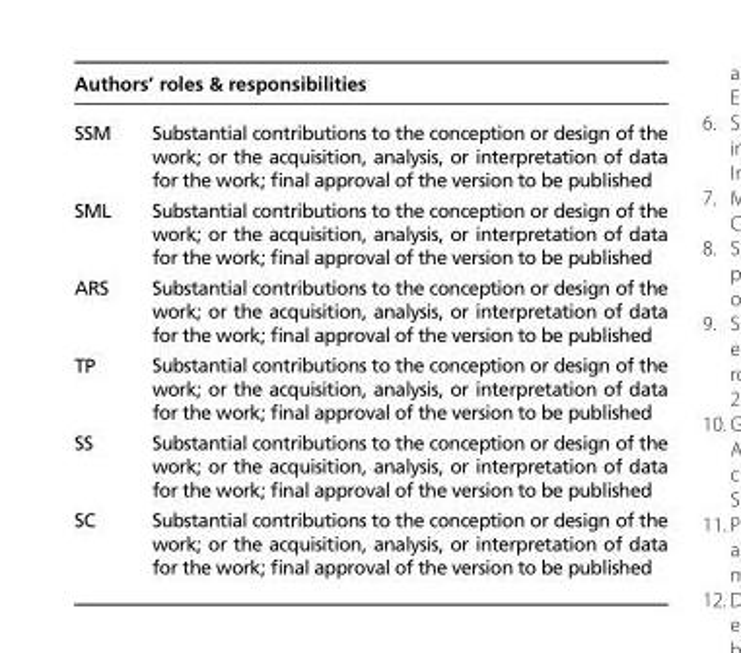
<table><thead><tr><td colspan="2">Authors’ roles &amp; responsibilities</td></tr><tr><td>SSM</td><td>Substantial contributions to the conception or design of the work; or the acquisition, analysis, or interpretation of data for the work; final approval of the version to be published</td></tr></thead><tbody><tr><td>SML</td><td>Substantial contributions to the conception or design of the work; or the acquisition, analysis, or interpretation of data for the work; final approval of the version to be published</td></tr><tr><td>ARS</td><td>Substantial contributions to the conception or design of the work; or the acquisition, analysis, or interpretation of data for the work; final approval of the version to be published</td></tr><tr><td>TP</td><td>Substantial contributions to the conception or design of the work; or the acquisition, analysis, or interpretation of data for the work; final approval of the version to be published</td></tr><tr><td>SS</td><td>Substantial contributions to the conception or design of the work; or the acquisition, analysis, or interpretation of data for the work; final approval of the version to be published</td></tr><tr><td>SC</td><td>Substantial contributions to the conception or design of the work; or the acquisition, analysis, or interpretation of data for the work; final approval of the version to be published</td></tr></tbody></table>